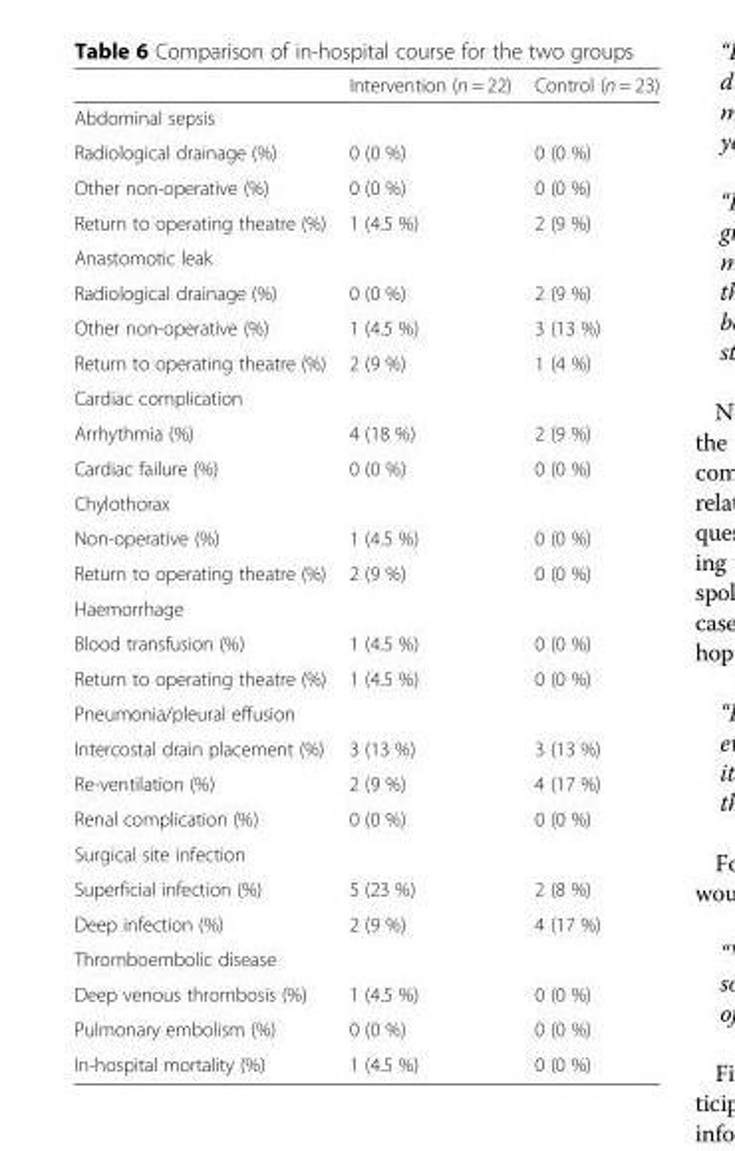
<table><thead><tr><td></td><td>Intervention (n = 22)</td><td>Control (n = 23)</td></tr></thead><tbody><tr><td colspan="3">Abdominal sepsis</td></tr><tr><td>Radiological drainage (%)</td><td>0 (0 %)</td><td>0 (0 %)</td></tr><tr><td>Other non-operative (%)</td><td>0 (0 %)</td><td>0 (0 %)</td></tr><tr><td>Return to operating theatre (%)</td><td>1 (4.5 %)</td><td>2 (9 %)</td></tr><tr><td colspan="3">Anastomotic leak</td></tr><tr><td>Radiological drainage (%)</td><td>0 (0 %)</td><td>2 (9 %)</td></tr><tr><td>Other non-operative (%)</td><td>1 (4.5 %)</td><td>3 (13 %)</td></tr><tr><td>Return to operating theatre (%)</td><td>2 (9 %)</td><td>1 (4 %)</td></tr><tr><td colspan="3">Cardiac complication</td></tr><tr><td>Arrhythmia (%)</td><td>4 (18 %)</td><td>2 (9 %)</td></tr><tr><td>Cardiac failure (%)</td><td>0 (0 %)</td><td>0 (0 %)</td></tr><tr><td colspan="3">Chylothorax</td></tr><tr><td>Non-operative (%)</td><td>1 (4.5 %)</td><td>0 (0 %)</td></tr><tr><td>Return to operating theatre (%)</td><td>2 (9 %)</td><td>0 (0 %)</td></tr><tr><td colspan="3">Haemorrhage</td></tr><tr><td>Blood transfusion (%)</td><td>1 (4.5 %)</td><td>0 (0 %)</td></tr><tr><td>Return to operating theatre (%)</td><td>1 (4.5 %)</td><td>0 (0 %)</td></tr><tr><td colspan="3">Pneumonia/pleural effusion</td></tr><tr><td>Intercostal drain placement (%)</td><td>3 (13 %)</td><td>3 (13 %)</td></tr><tr><td>Re-ventilation (%)</td><td>2 (9 %)</td><td>4 (17 %)</td></tr><tr><td>Renal complication (%)</td><td>0 (0 %)</td><td>0 (0 %)</td></tr><tr><td colspan="3">Surgical site infection</td></tr><tr><td>Superficial infection (%)</td><td>5 (23 %)</td><td>2 (8 %)</td></tr><tr><td>Deep infection (%)</td><td>2 (9 %)</td><td>4 (17 %)</td></tr><tr><td colspan="3">Thromboembolic disease</td></tr><tr><td>Deep venous thrombosis (%)</td><td>1 (4.5 %)</td><td>0 (0 %)</td></tr><tr><td>Pulmonary embolism (%)</td><td>0 (0 %)</td><td>0 (0 %)</td></tr><tr><td>In-hospital mortality (%)</td><td>1 (4.5 %)</td><td>0 (0 %)</td></tr></tbody></table>